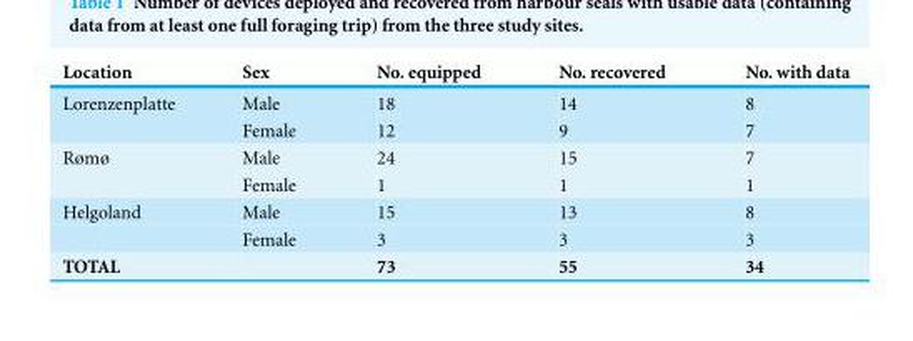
<table><thead><tr><td>Location</td><td>Sex</td><td>No. equipped</td><td>No. recovered</td><td>No. with data</td></tr></thead><tbody><tr><td rowspan="2">Lorenzenplatte</td><td>Male</td><td>18</td><td>14</td><td>8</td></tr><tr><td>Female</td><td>12</td><td>9</td><td>7</td></tr><tr><td rowspan="2">Rømø</td><td>Male</td><td>24</td><td>15</td><td>7</td></tr><tr><td>Female</td><td>1</td><td>1</td><td>1</td></tr><tr><td rowspan="2">Helgoland</td><td>Male</td><td>15</td><td>13</td><td>8</td></tr><tr><td>Female</td><td>3</td><td>3</td><td>3</td></tr><tr><td>TOTAL</td><td></td><td>73</td><td>55</td><td>34</td></tr></tbody></table>